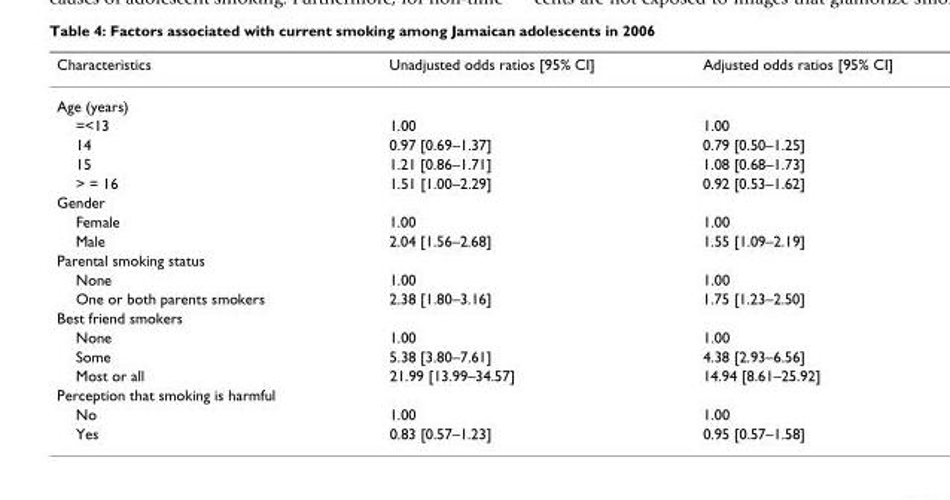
<table><thead><tr><td>Characteristics</td><td>Unadjusted odds ratios [95% CI]</td><td>Adjusted odds ratios [95% CI]</td></tr></thead><tbody><tr><td colspan="3">Age (years)</td></tr><tr><td>=&lt;13</td><td>1.00</td><td>1.00</td></tr><tr><td>14</td><td>0.97 [0.69–1.37]</td><td>0.79 [0.50–1.25]</td></tr><tr><td>15</td><td>1.21 [0.86–1.71]</td><td>1.08 [0.68–1.73]</td></tr><tr><td>&gt; = 16</td><td>1.51 [1.00–2.29]</td><td>0.92 [0.53–1.62]</td></tr><tr><td colspan="3">Gender</td></tr><tr><td>Female</td><td>1.00</td><td>1.00</td></tr><tr><td>Male</td><td>2.04 [1.56–2.68]</td><td>1.55 [1.09–2.19]</td></tr><tr><td colspan="3">Parental smoking status</td></tr><tr><td>None</td><td>1.00</td><td>1.00</td></tr><tr><td>One or both parents smokers</td><td>2.38 [1.80–3.16]</td><td>1.75 [1.23–2.50]</td></tr><tr><td colspan="3">Best friend smokers</td></tr><tr><td>None</td><td>1.00</td><td>1.00</td></tr><tr><td>Some</td><td>5.38 [3.80–7.61]</td><td>4.38 [2.93–6.56]</td></tr><tr><td>Most or all</td><td>21.99 [13.99–34.57]</td><td>14.94 [8.61–25.92]</td></tr><tr><td colspan="3">Perception that smoking is harmful</td></tr><tr><td>No</td><td>1.00</td><td>1.00</td></tr><tr><td>Yes</td><td>0.83 [0.57–1.23]</td><td>0.95 [0.57–1.58]</td></tr></tbody></table>